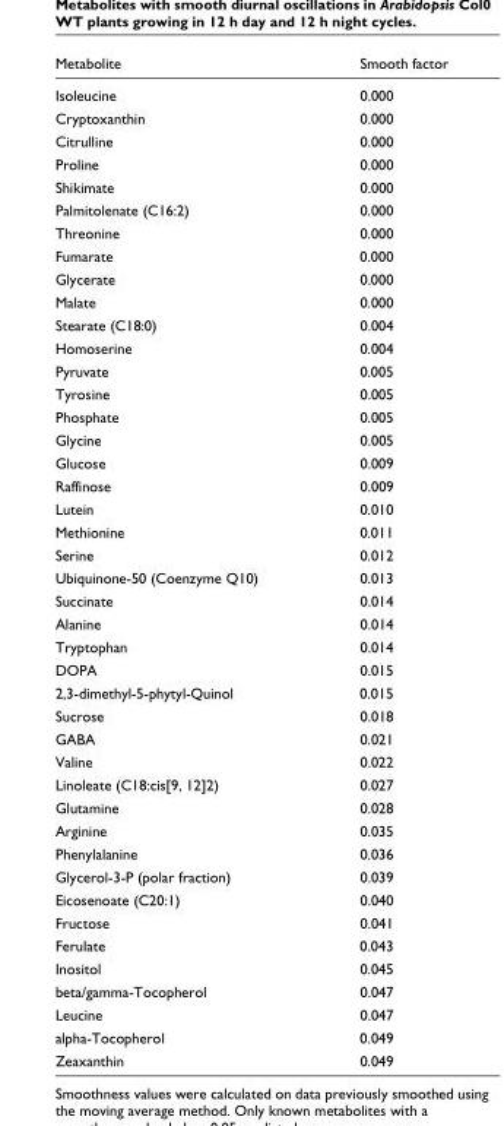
<table><thead><tr><td>Metabolite</td><td>Smooth factor</td></tr></thead><tbody><tr><td>Isoleucine</td><td>0.000</td></tr><tr><td>Cryptoxanthin</td><td>0.000</td></tr><tr><td>Citrulline</td><td>0.000</td></tr><tr><td>Proline</td><td>0.000</td></tr><tr><td>Shikimate</td><td>0.000</td></tr><tr><td>Palmitolenate (C16:2)</td><td>0.000</td></tr><tr><td>Threonine</td><td>0.000</td></tr><tr><td>Fumarate</td><td>0.000</td></tr><tr><td>Glycerate</td><td>0.000</td></tr><tr><td>Malate</td><td>0.000</td></tr><tr><td>Stearate (C18:0)</td><td>0.004</td></tr><tr><td>Homoserine</td><td>0.004</td></tr><tr><td>Pyruvate</td><td>0.005</td></tr><tr><td>Tyrosine</td><td>0.005</td></tr><tr><td>Phosphate</td><td>0.005</td></tr><tr><td>Glycine</td><td>0.005</td></tr><tr><td>Glucose</td><td>0.009</td></tr><tr><td>Raffinose</td><td>0.009</td></tr><tr><td>Lutein</td><td>0.010</td></tr><tr><td>Methionine</td><td>0.011</td></tr><tr><td>Serine</td><td>0.012</td></tr><tr><td>Ubiquinone-50 (Coenzyme Q10)</td><td>0.013</td></tr><tr><td>Succinate</td><td>0.014</td></tr><tr><td>Alanine</td><td>0.014</td></tr><tr><td>Tryptophan</td><td>0.014</td></tr><tr><td>DOPA</td><td>0.015</td></tr><tr><td>2,3-dimethyl-5-phytyl-Quinol</td><td>0.015</td></tr><tr><td>Sucrose</td><td>0.018</td></tr><tr><td>GABA</td><td>0.021</td></tr><tr><td>Valine</td><td>0.022</td></tr><tr><td>Linoleate (C18:cis[9, 12]2)</td><td>0.027</td></tr><tr><td>Glutamine</td><td>0.028</td></tr><tr><td>Arginine</td><td>0.035</td></tr><tr><td>Phenylalanine</td><td>0.036</td></tr><tr><td>Glycerol-3-P (polar fraction)</td><td>0.039</td></tr><tr><td>Eicosenoate (C20:1)</td><td>0.040</td></tr><tr><td>Fructose</td><td>0.041</td></tr><tr><td>Ferulate</td><td>0.043</td></tr><tr><td>Inositol</td><td>0.045</td></tr><tr><td>beta/gamma-Tocopherol</td><td>0.047</td></tr><tr><td>Leucine</td><td>0.047</td></tr><tr><td>alpha-Tocopherol</td><td>0.049</td></tr><tr><td>Zeaxanthin</td><td>0.049</td></tr></tbody></table>